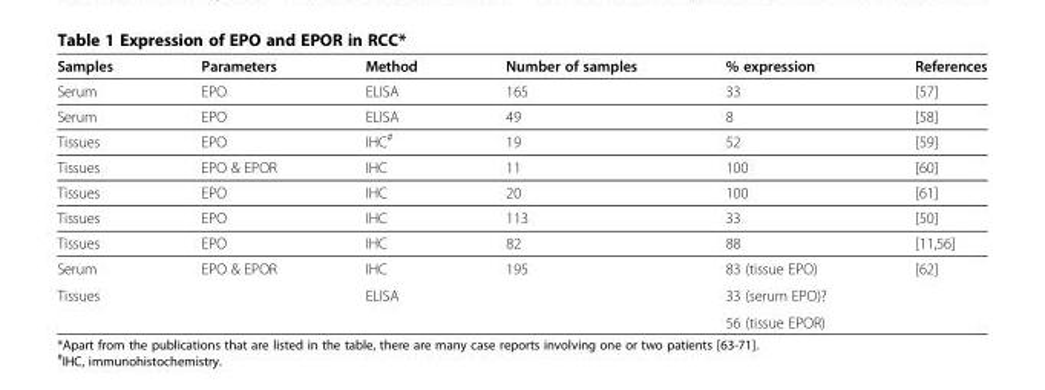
<table><thead><tr><td>Samples</td><td>Parameters</td><td>Method</td><td>Number of samples</td><td>% expression</td><td>References</td></tr></thead><tbody><tr><td>Serum</td><td>EPO</td><td>ELISA</td><td>165</td><td>33</td><td>[57]</td></tr><tr><td>Serum</td><td>EPO</td><td>ELISA</td><td>49</td><td>8</td><td>[58]</td></tr><tr><td>Tissues</td><td>EPO</td><td>IHC<sup>#</sup></td><td>19</td><td>52</td><td>[59]</td></tr><tr><td>Tissues</td><td>EPO &amp; EPOR</td><td>IHC</td><td>11</td><td>100</td><td>[60]</td></tr><tr><td>Tissues</td><td>EPO</td><td>IHC</td><td>20</td><td>100</td><td>[61]</td></tr><tr><td>Tissues</td><td>EPO</td><td>IHC</td><td>113</td><td>33</td><td>[50]</td></tr><tr><td>Tissues</td><td>EPO</td><td>IHC</td><td>82</td><td>88</td><td>[11,56]</td></tr><tr><td>Serum</td><td>EPO &amp; EPOR</td><td>IHC</td><td>195</td><td>83 (tissue EPO)</td><td>[62]</td></tr><tr><td rowspan="2">Tissues</td><td></td><td>ELISA</td><td></td><td>33 (serum EPO)?</td><td></td></tr><tr><td></td><td></td><td></td><td>56 (tissue EPOR)</td><td></td></tr></tbody></table>